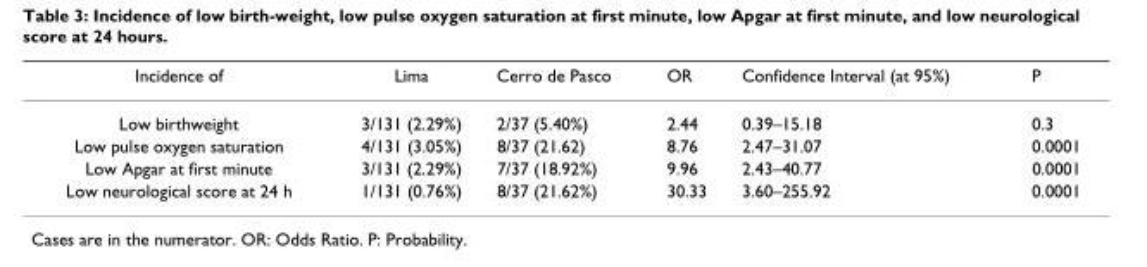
<table><thead><tr><td>Incidence of</td><td>Lima</td><td>Cerro de Pasco</td><td>OR</td><td>Confidence Interval (at 95%)</td><td>P</td></tr></thead><tbody><tr><td>Low birthweight</td><td>3/131 (2.29%)</td><td>2/37 (5.40%)</td><td>2.44</td><td>0.39–15.18</td><td>0.3</td></tr><tr><td>Low pulse oxygen saturation</td><td>4/131 (3.05%)</td><td>8/37 (21.62)</td><td>8.76</td><td>2.47–31.07</td><td>0.0001</td></tr><tr><td>Low Apgar at first minute</td><td>3/131 (2.29%)</td><td>7/37 (18.92%)</td><td>9.96</td><td>2.43–40.77</td><td>0.0001</td></tr><tr><td>Low neurological score at 24 h</td><td>1/131 (0.76%)</td><td>8/37 (21.62%)</td><td>30.33</td><td>3.60–255.92</td><td>0.0001</td></tr></tbody></table>